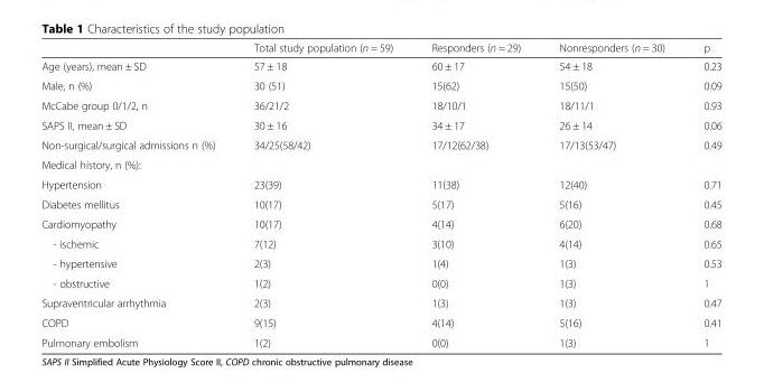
<table><thead><tr><td></td><td>Total study population (n = 59)</td><td>Responders (n = 29)</td><td>Nonresponders (n = 30)</td><td>p</td></tr></thead><tbody><tr><td>Age (years), mean ± SD</td><td>57 ± 18</td><td>60 ± 17</td><td>54 ± 18</td><td>0.23</td></tr><tr><td>Male, n (%)</td><td>30 (51)</td><td>15(62)</td><td>15(50)</td><td>0.09</td></tr><tr><td>McCabe group 0/1/2, n</td><td>36/21/2</td><td>18/10/1</td><td>18/11/1</td><td>0.93</td></tr><tr><td>SAPS II, mean ± SD</td><td>30 ± 16</td><td>34 ± 17</td><td>26 ± 14</td><td>0.06</td></tr><tr><td>Non-surgical/surgical admissions n (%)</td><td>34/25(58/42)</td><td>17/12(62/38)</td><td>17/13(53/47)</td><td>0.49</td></tr><tr><td colspan="5">Medical history, n (%):</td></tr><tr><td>Hypertension</td><td>23(39)</td><td>11(38)</td><td>12(40)</td><td>0.71</td></tr><tr><td>Diabetes mellitus</td><td>10(17)</td><td>5(17)</td><td>5(16)</td><td>0.45</td></tr><tr><td>Cardiomyopathy</td><td>10(17)</td><td>4(14)</td><td>6(20)</td><td>0.68</td></tr><tr><td>- ischemic</td><td>7(12)</td><td>3(10)</td><td>4(14)</td><td>0.65</td></tr><tr><td>- hypertensive</td><td>2(3)</td><td>1(4)</td><td>1(3)</td><td>0.53</td></tr><tr><td>- obstructive</td><td>1(2)</td><td>0(0)</td><td>1(3)</td><td>1</td></tr><tr><td>Supraventricular arrhythmia</td><td>2(3)</td><td>1(3)</td><td>1(3)</td><td>0.47</td></tr><tr><td>COPD</td><td>9(15)</td><td>4(14)</td><td>5(16)</td><td>0.41</td></tr><tr><td>Pulmonary embolism</td><td>1(2)</td><td>0(0)</td><td>1(3)</td><td>1</td></tr></tbody></table>